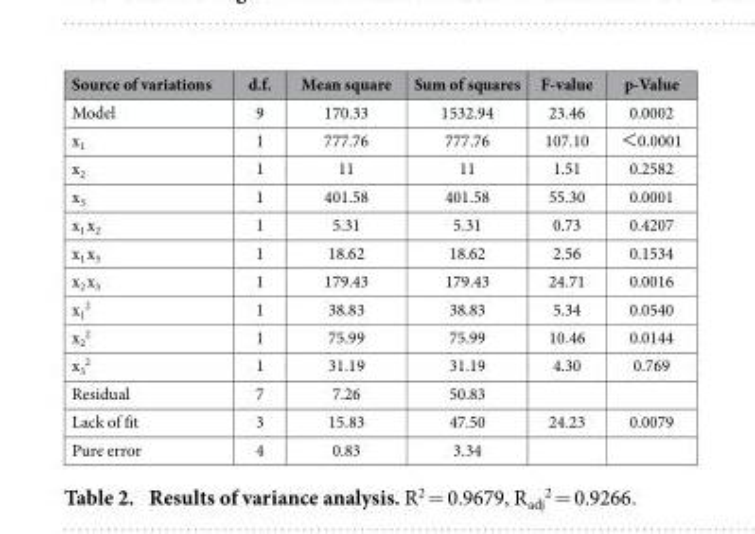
<table><thead><tr><td>Source of variations</td><td>d.f.</td><td>Mean square</td><td>Sum of squares</td><td>F-value</td><td>p-Value</td></tr></thead><tbody><tr><td>Model</td><td>9</td><td>170.33</td><td>1532.94</td><td>23.46</td><td>0.0002</td></tr><tr><td>x<sub>1</sub></td><td>1</td><td>777.76</td><td>777.76</td><td>107.10</td><td>＜ 0.0001</td></tr><tr><td>x<sub>2</sub></td><td>1</td><td>11</td><td>11</td><td>1.51</td><td>0.2582</td></tr><tr><td>x<sub>3</sub></td><td>1</td><td>401.58</td><td>401.58</td><td>55.30</td><td>0.0001</td></tr><tr><td>x<sub>1</sub> x<sub>2</sub></td><td>1</td><td>5.31</td><td>5.31</td><td>0.73</td><td>0.4207</td></tr><tr><td>x<sub>1</sub> x<sub>3</sub></td><td>1</td><td>18.62</td><td>18.62</td><td>2.56</td><td>0.1534</td></tr><tr><td>x<sub>2</sub> x<sub>3</sub></td><td>1</td><td>179.43</td><td>179.43</td><td>24.71</td><td>0.0016</td></tr><tr><td>x<sub>1</sub> <sup>2</sup></td><td>1</td><td>38.83</td><td>38.83</td><td>5.34</td><td>0.0540</td></tr><tr><td>x<sub>2</sub> <sup>2</sup></td><td>1</td><td>75.99</td><td>75.99</td><td>10.46</td><td>0.0144</td></tr><tr><td>x<sub>3</sub> <sup>2</sup></td><td>1</td><td>31.19</td><td>31.19</td><td>4.30</td><td>0.769</td></tr><tr><td>Residual</td><td>7</td><td>7.26</td><td>50.83</td><td></td><td></td></tr><tr><td>Lack of fit</td><td>3</td><td>15.83</td><td>47.50</td><td>24.23</td><td>0.0079</td></tr><tr><td>Pure error</td><td>4</td><td>0.83</td><td>3.34</td><td></td><td></td></tr></tbody></table>